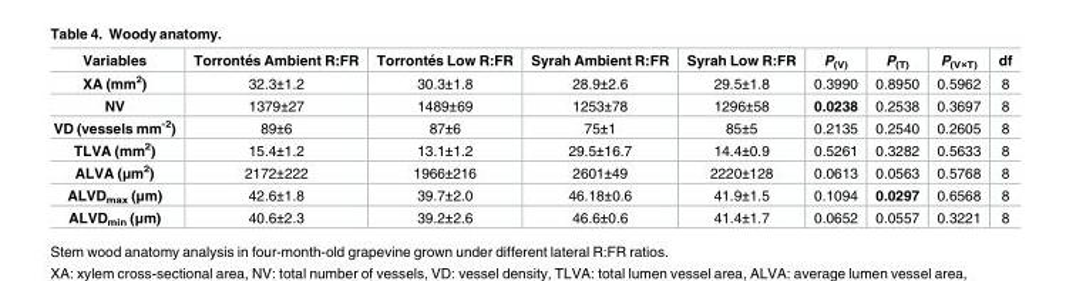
<table><thead><tr><td>Variables</td><td>Torronte´s Ambient R:FR</td><td>Torronte´s Low R:FR</td><td>Syrah Ambient R:FR</td><td>Syrah Low R:FR</td><td>P<sub>(V)</sub></td><td>P<sub>(T)</sub></td><td>P<sub>(V×T)</sub></td><td>df</td></tr></thead><tbody><tr><td>XA (mm<sup>2</sup>)</td><td>32.3±1.2</td><td>30.3±1.8</td><td>28.9±2.6</td><td>29.5±1.8</td><td>0.3990</td><td>0.8950</td><td>0.5962</td><td>8</td></tr><tr><td>NV</td><td>1379±27</td><td>1489±69</td><td>1253±78</td><td>1296±58</td><td>0.0238</td><td>0.2538</td><td>0.3697</td><td>8</td></tr><tr><td>VD (vessels mm<sup>-2</sup>)</td><td>89±6</td><td>87±6</td><td>75±1</td><td>85±5</td><td>0.2135</td><td>0.2540</td><td>0.2605</td><td>8</td></tr><tr><td>TLVA (mm<sup>2</sup>)</td><td>15.4±1.2</td><td>13.1±1.2</td><td>29.5±16.7</td><td>14.4±0.9</td><td>0.5261</td><td>0.3282</td><td>0.5633</td><td>8</td></tr><tr><td>ALVA (μm<sup>2</sup>)</td><td>2172±222</td><td>1966±216</td><td>2601±49</td><td>2220±128</td><td>0.0613</td><td>0.0563</td><td>0.5768</td><td>8</td></tr><tr><td>ALVD<sub>max</sub> (μm)</td><td>42.6±1.8</td><td>39.7±2.0</td><td>46.18±0.6</td><td>41.9±1.5</td><td>0.1094</td><td>0.0297</td><td>0.6568</td><td>8</td></tr><tr><td>ALVD<sub>min</sub> (μm)</td><td>40.6±2.3</td><td>39.2±2.6</td><td>46.6±0.6</td><td>41.4±1.7</td><td>0.0652</td><td>0.0557</td><td>0.3221</td><td>8</td></tr></tbody></table>